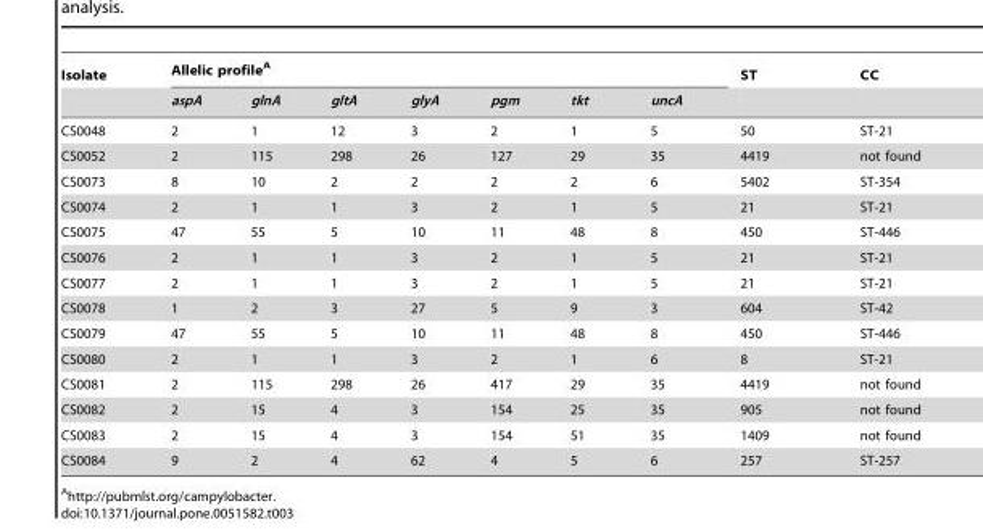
<table><thead><tr><td rowspan="2">Isolate</td><td colspan="7">Allelic profile<sup>A</sup></td><td rowspan="2">ST</td><td rowspan="2">CC</td></tr><tr><td>aspA</td><td>glnA</td><td>gltA</td><td>glyA</td><td>pgm</td><td>tkt</td><td>uncA</td></tr></thead><tbody><tr><td>CS0048</td><td>2</td><td>1</td><td>12</td><td>3</td><td>2</td><td>1</td><td>5</td><td>50</td><td>ST-21</td></tr><tr><td>CS0052</td><td>2</td><td>115</td><td>298</td><td>26</td><td>127</td><td>29</td><td>35</td><td>4419</td><td>not found</td></tr><tr><td>CS0073</td><td>8</td><td>10</td><td>2</td><td>2</td><td>2</td><td>2</td><td>6</td><td>5402</td><td>ST-354</td></tr><tr><td>CS0074</td><td>2</td><td>1</td><td>1</td><td>3</td><td>2</td><td>1</td><td>5</td><td>21</td><td>ST-21</td></tr><tr><td>CS0075</td><td>47</td><td>55</td><td>5</td><td>10</td><td>11</td><td>48</td><td>8</td><td>450</td><td>ST-446</td></tr><tr><td>CS0076</td><td>2</td><td>1</td><td>1</td><td>3</td><td>2</td><td>1</td><td>5</td><td>21</td><td>ST-21</td></tr><tr><td>CS0077</td><td>2</td><td>1</td><td>1</td><td>3</td><td>2</td><td>1</td><td>5</td><td>21</td><td>ST-21</td></tr><tr><td>CS0078</td><td>1</td><td>2</td><td>3</td><td>27</td><td>5</td><td>9</td><td>3</td><td>604</td><td>ST-42</td></tr><tr><td>CS0079</td><td>47</td><td>55</td><td>5</td><td>10</td><td>11</td><td>48</td><td>8</td><td>450</td><td>ST-446</td></tr><tr><td>CS0080</td><td>2</td><td>1</td><td>1</td><td>3</td><td>2</td><td>1</td><td>6</td><td>8</td><td>ST-21</td></tr><tr><td>CS0081</td><td>2</td><td>115</td><td>298</td><td>26</td><td>417</td><td>29</td><td>35</td><td>4419</td><td>not found</td></tr><tr><td>CS0082</td><td>2</td><td>15</td><td>4</td><td>3</td><td>154</td><td>25</td><td>35</td><td>905</td><td>not found</td></tr><tr><td>CS0083</td><td>2</td><td>15</td><td>4</td><td>3</td><td>154</td><td>51</td><td>35</td><td>1409</td><td>not found</td></tr><tr><td>CS0084</td><td>9</td><td>2</td><td>4</td><td>62</td><td>4</td><td>5</td><td>6</td><td>257</td><td>ST-257</td></tr></tbody></table>